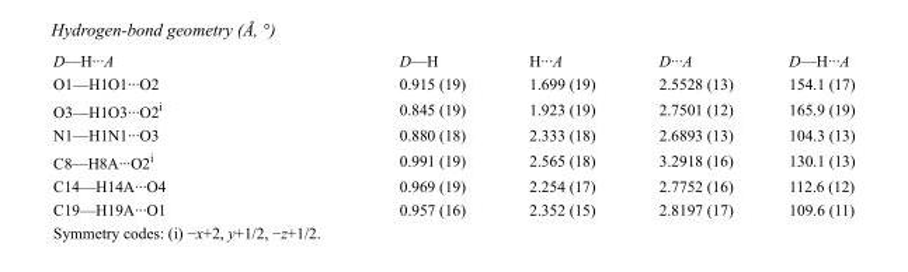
<table><tbody><tr><td>D—H···A</td><td>D—H</td><td>H···A</td><td>D···A</td><td>D—H···A</td></tr><tr><td>O1—H1O1···O2</td><td>0.915 (19)</td><td>1.699 (19)</td><td>2.5528 (13)</td><td>154.1 (17)</td></tr><tr><td>O3—H1O3···O2<sup>i</sup></td><td>0.845 (19)</td><td>1.923 (19)</td><td>2.7501 (12)</td><td>165.9 (19)</td></tr><tr><td>N1—H1N1···O3</td><td>0.880 (18)</td><td>2.333 (18)</td><td>2.6893 (13)</td><td>104.3 (13)</td></tr><tr><td>C8—H8A···O2<sup>i</sup></td><td>0.991 (19)</td><td>2.565 (18)</td><td>3.2918 (16)</td><td>130.1 (13)</td></tr><tr><td>C14—H14A···O4</td><td>0.969 (19)</td><td>2.254 (17)</td><td>2.7752 (16)</td><td>112.6 (12)</td></tr><tr><td>C19—H19A···O1</td><td>0.957 (16)</td><td>2.352 (15)</td><td>2.8197 (17)</td><td>109.6 (11)</td></tr></tbody></table>